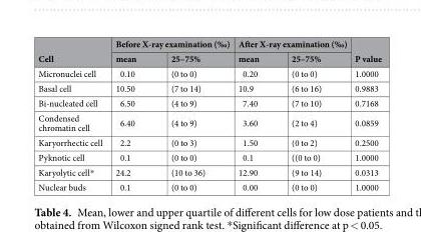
<table><thead><tr><td rowspan="2">Cell</td><td colspan="2">Before X-ray examination (‰)</td><td colspan="2">After X-ray examination (‰)</td><td rowspan="2">P value</td></tr><tr><td>mean</td><td>25–75%</td><td>mean</td><td>25–75%</td></tr></thead><tbody><tr><td>Micronuclei cell</td><td>0.10</td><td>(0 to 0)</td><td>0.20</td><td>(0 to 0)</td><td>1.0000</td></tr><tr><td>Basal cell</td><td>10.50</td><td>(7 to 14)</td><td>10.9</td><td>(6 to 16)</td><td>0.9883</td></tr><tr><td>Bi-nucleated cell</td><td>6.50</td><td>(4 to 9)</td><td>7.40</td><td>(7 to 10)</td><td>0.7168</td></tr><tr><td>Condensed chromatin cell</td><td>6.40</td><td>(4 to 9)</td><td>3.60</td><td>(2 to 4)</td><td>0.0859</td></tr><tr><td>Karyorrhectic cell</td><td>2.2</td><td>(0 to 3)</td><td>1.50</td><td>(0 to 2)</td><td>0.2500</td></tr><tr><td>Pyknotic cell</td><td>0.1</td><td>(0 to 0)</td><td>0.1</td><td>((0 to 0)</td><td>1.0000</td></tr><tr><td>Karyolytic cell*</td><td>24.2</td><td>(10 to 36)</td><td>12.90</td><td>(9 to 14)</td><td>0.0313</td></tr><tr><td>Nuclear buds</td><td>0.1</td><td>(0 to 0)</td><td>0.00</td><td>(0 to 0)</td><td>1.0000</td></tr></tbody></table>